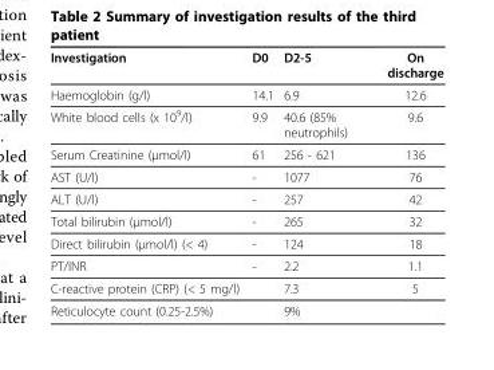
<table><thead><tr><td>Investigation</td><td>D0</td><td>D2-5</td><td>On discharge</td></tr></thead><tbody><tr><td>Haemoglobin (g/l)</td><td>14.1</td><td>6.9</td><td>12.6</td></tr><tr><td>White blood cells (x 10<sup>9</sup>/l)</td><td>9.9</td><td>40.6 (85% neutrophils)</td><td>9.6</td></tr><tr><td>Serum Creatinine (μmol/l)</td><td>61</td><td>256 - 621</td><td>136</td></tr><tr><td>AST (U/l)</td><td>-</td><td>1077</td><td>76</td></tr><tr><td>ALT (U/l)</td><td>-</td><td>257</td><td>42</td></tr><tr><td>Total bilirubin (μmol/l)</td><td>-</td><td>265</td><td>32</td></tr><tr><td>Direct bilirubin (μmol/l) (&lt; 4)</td><td>-</td><td>124</td><td>18</td></tr><tr><td>PT/INR</td><td>-</td><td>2.2</td><td>1.1</td></tr><tr><td>C-reactive protein (CRP) (&lt; 5 mg/l)</td><td></td><td>7.3</td><td>5</td></tr><tr><td>Reticulocyte count (0.25-2.5%)</td><td></td><td>9%</td><td></td></tr></tbody></table>